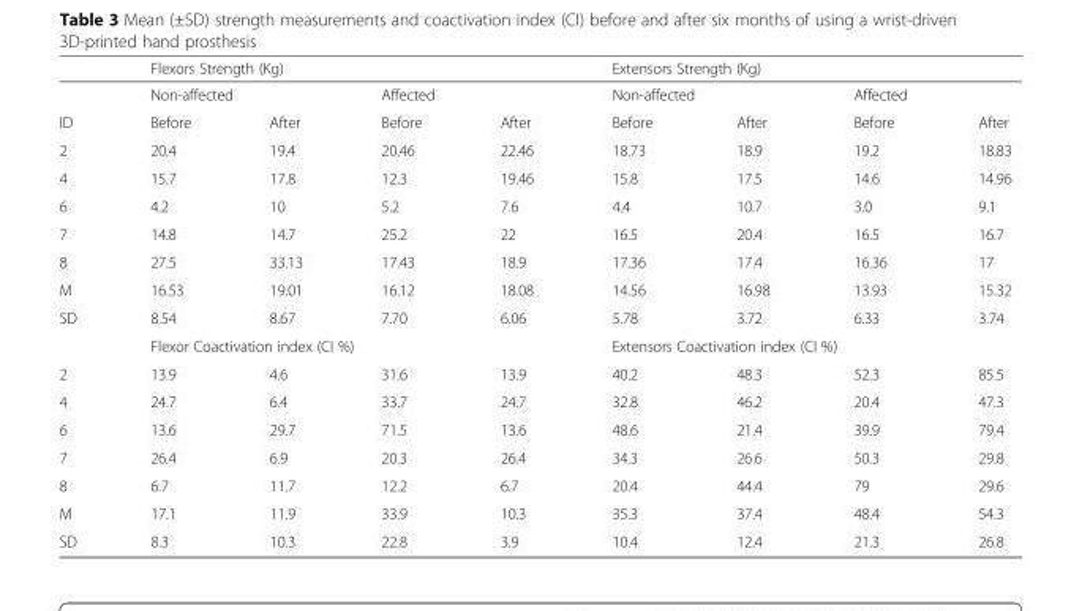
<table><thead><tr><td rowspan="3">ID</td><td colspan="4">Flexors Strength (Kg)</td><td colspan="4">Extensors Strength (Kg)</td></tr><tr><td colspan="2">Non-affected</td><td colspan="2">Affected</td><td colspan="2">Non-affected</td><td colspan="2">Affected</td></tr><tr><td>Before</td><td>After</td><td>Before</td><td>After</td><td>Before</td><td>After</td><td>Before</td><td>After</td></tr></thead><tbody><tr><td>2</td><td>20.4</td><td>19.4</td><td>20.46</td><td>22.46</td><td>18.73</td><td>18.9</td><td>19.2</td><td>18.83</td></tr><tr><td>4</td><td>15.7</td><td>17.8</td><td>12.3</td><td>19.46</td><td>15.8</td><td>17.5</td><td>14.6</td><td>14.96</td></tr><tr><td>6</td><td>4.2</td><td>10</td><td>5.2</td><td>7.6</td><td>4.4</td><td>10.7</td><td>3.0</td><td>9.1</td></tr><tr><td>7</td><td>14.8</td><td>14.7</td><td>25.2</td><td>22</td><td>16.5</td><td>20.4</td><td>16.5</td><td>16.7</td></tr><tr><td>8</td><td>27.5</td><td>33.13</td><td>17.43</td><td>18.9</td><td>17.36</td><td>17.4</td><td>16.36</td><td>17</td></tr><tr><td>M</td><td>16.53</td><td>19.01</td><td>16.12</td><td>18.08</td><td>14.56</td><td>16.98</td><td>13.93</td><td>15.32</td></tr><tr><td rowspan="2">SD</td><td>8.54</td><td>8.67</td><td>7.70</td><td>6.06</td><td>5.78</td><td>3.72</td><td>6.33</td><td>3.74</td></tr><tr><td colspan="4">Flexor Coactivation index (CI %)</td><td colspan="4">Extensors Coactivation index (CI %)</td></tr><tr><td>2</td><td>13.9</td><td>4.6</td><td>31.6</td><td>13.9</td><td>40.2</td><td>48.3</td><td>52.3</td><td>85.5</td></tr><tr><td>4</td><td>24.7</td><td>6.4</td><td>33.7</td><td>24.7</td><td>32.8</td><td>46.2</td><td>20.4</td><td>47.3</td></tr><tr><td>6</td><td>13.6</td><td>29.7</td><td>71.5</td><td>13.6</td><td>48.6</td><td>21.4</td><td>39.9</td><td>79.4</td></tr><tr><td>7</td><td>26.4</td><td>6.9</td><td>20.3</td><td>26.4</td><td>34.3</td><td>26.6</td><td>50.3</td><td>29.8</td></tr><tr><td>8</td><td>6.7</td><td>11.7</td><td>12.2</td><td>6.7</td><td>20.4</td><td>44.4</td><td>79</td><td>29.6</td></tr><tr><td>M</td><td>17.1</td><td>11.9</td><td>33.9</td><td>10.3</td><td>35.3</td><td>37.4</td><td>48.4</td><td>54.3</td></tr><tr><td>SD</td><td>8.3</td><td>10.3</td><td>22.8</td><td>3.9</td><td>10.4</td><td>12.4</td><td>21.3</td><td>26.8</td></tr></tbody></table>